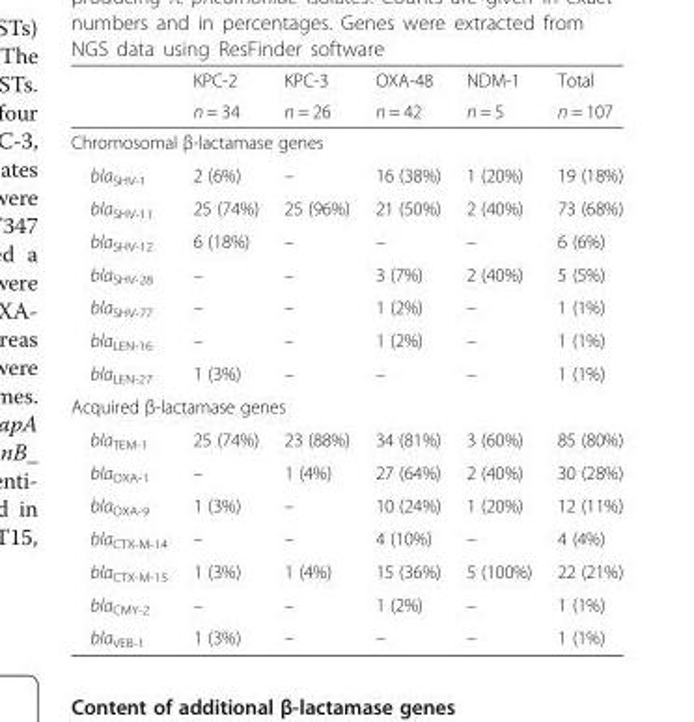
<table><thead><tr><td rowspan="2"></td><td rowspan="2">KPC-2 n = 34</td><td rowspan="2">KPC-3 n = 26</td><td rowspan="2">OXA-48 n = 42</td><td rowspan="2">NDM-1 n = 5</td><td rowspan="2">Total n = 107</td></tr><tr></tr></thead><tbody><tr><td colspan="6">Chromosomal β-lactamase genes</td></tr><tr><td>bla<sub>SHV-1</sub></td><td>2 (6%)</td><td>–</td><td>16 (38%)</td><td>1 (20%)</td><td>19 (18%)</td></tr><tr><td>bla<sub>SHV-11</sub></td><td>25 (74%)</td><td>25 (96%)</td><td>21 (50%)</td><td>2 (40%)</td><td>73 (68%)</td></tr><tr><td>bla<sub>SHV-12</sub></td><td>6 (18%)</td><td>–</td><td>–</td><td>–</td><td>6 (6%)</td></tr><tr><td>bla<sub>SHV-28</sub></td><td>–</td><td>–</td><td>3 (7%)</td><td>2 (40%)</td><td>5 (5%)</td></tr><tr><td>bla<sub>SHV-77</sub></td><td>–</td><td>–</td><td>1 (2%)</td><td>–</td><td>1 (1%)</td></tr><tr><td>bla<sub>LEN-16</sub></td><td>–</td><td>–</td><td>1 (2%)</td><td>–</td><td>1 (1%)</td></tr><tr><td>bla<sub>LEN-27</sub></td><td>1 (3%)</td><td>–</td><td>–</td><td>–</td><td>1 (1%)</td></tr><tr><td colspan="6">Acquired β-lactamase genes</td></tr><tr><td>bla<sub>TEM-1</sub></td><td>25 (74%)</td><td>23 (88%)</td><td>34 (81%)</td><td>3 (60%)</td><td>85 (80%)</td></tr><tr><td>bla<sub>OXA-1</sub></td><td>–</td><td>1 (4%)</td><td>27 (64%)</td><td>2 (40%)</td><td>30 (28%)</td></tr><tr><td>bla<sub>OXA-9</sub></td><td>1 (3%)</td><td>–</td><td>10 (24%)</td><td>1 (20%)</td><td>12 (11%)</td></tr><tr><td>bla<sub>CTX-M-14</sub></td><td>–</td><td>–</td><td>4 (10%)</td><td>–</td><td>4 (4%)</td></tr><tr><td>bla<sub>CTX-M-15</sub></td><td>1 (3%)</td><td>1 (4%)</td><td>15 (36%)</td><td>5 (100%)</td><td>22 (21%)</td></tr><tr><td>bla<sub>CMY-2</sub></td><td>–</td><td>–</td><td>1 (2%)</td><td>–</td><td>1 (1%)</td></tr><tr><td>bla<sub>VEB-1</sub></td><td>1 (3%)</td><td>–</td><td>–</td><td>–</td><td>1 (1%)</td></tr></tbody></table>